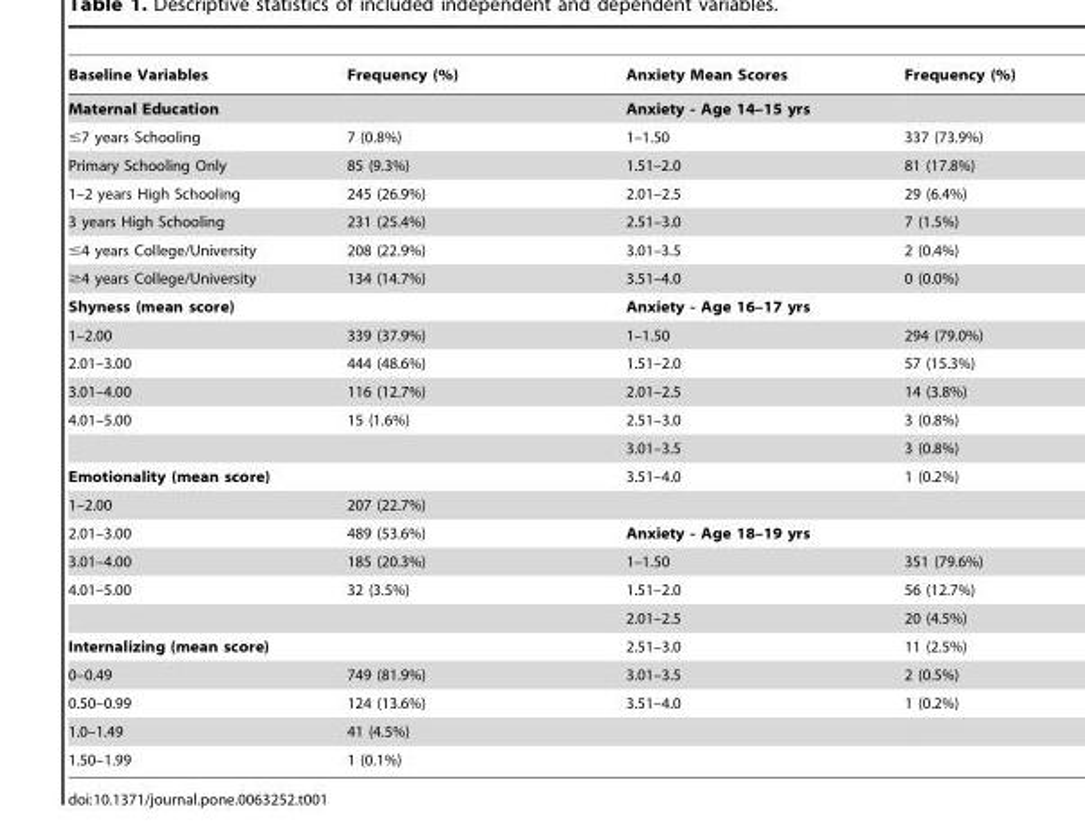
<table><thead><tr><td>Baseline Variables</td><td>Frequency (%)</td><td>Anxiety Mean Scores</td><td>Frequency (%)</td></tr></thead><tbody><tr><td>Maternal Education</td><td></td><td>Anxiety - Age 14–15 yrs</td><td></td></tr><tr><td>≤7 years Schooling</td><td>7 (0.8%)</td><td>1–1.50</td><td>337 (73.9%)</td></tr><tr><td>Primary Schooling Only</td><td>85 (9.3%)</td><td>1.51–2.0</td><td>81 (17.8%)</td></tr><tr><td>1–2 years High Schooling</td><td>245 (26.9%)</td><td>2.01–2.5</td><td>29 (6.4%)</td></tr><tr><td>3 years High Schooling</td><td>231 (25.4%)</td><td>2.51–3.0</td><td>7 (1.5%)</td></tr><tr><td>≤4 years College/University</td><td>208 (22.9%)</td><td>3.01–3.5</td><td>2 (0.4%)</td></tr><tr><td>≥4 years College/University</td><td>134 (14.7%)</td><td>3.51–4.0</td><td>0 (0.0%)</td></tr><tr><td>Shyness (mean score)</td><td></td><td>Anxiety - Age 16–17 yrs</td><td></td></tr><tr><td>1–2.00</td><td>339 (37.9%)</td><td>1–1.50</td><td>294 (79.0%)</td></tr><tr><td>2.01–3.00</td><td>444 (48.6%)</td><td>1.51–2.0</td><td>57 (15.3%)</td></tr><tr><td>3.01–4.00</td><td>116 (12.7%)</td><td>2.01–2.5</td><td>14 (3.8%)</td></tr><tr><td rowspan="2">4.01–5.00</td><td>15 (1.6%)</td><td>2.51–3.0</td><td>3 (0.8%)</td></tr><tr><td></td><td>3.01–3.5</td><td>3 (0.8%)</td></tr><tr><td>Emotionality (mean score)</td><td></td><td>3.51–4.0</td><td>1 (0.2%)</td></tr><tr><td>1–2.00</td><td>207 (22.7%)</td><td></td><td></td></tr><tr><td>2.01–3.00</td><td>489 (53.6%)</td><td>Anxiety - Age 18–19 yrs</td><td></td></tr><tr><td>3.01–4.00</td><td>185 (20.3%)</td><td>1–1.50</td><td>351 (79.6%)</td></tr><tr><td rowspan="2">4.01–5.00</td><td>32 (3.5%)</td><td>1.51–2.0</td><td>56 (12.7%)</td></tr><tr><td></td><td>2.01–2.5</td><td>20 (4.5%)</td></tr><tr><td>Internalizing (mean score)</td><td></td><td>2.51–3.0</td><td>11 (2.5%)</td></tr><tr><td>0–0.49</td><td>749 (81.9%)</td><td>3.01–3.5</td><td>2 (0.5%)</td></tr><tr><td>0.50–0.99</td><td>124 (13.6%)</td><td>3.51–4.0</td><td>1 (0.2%)</td></tr><tr><td>1.0–1.49</td><td>41 (4.5%)</td><td></td><td></td></tr><tr><td>1.50–1.99</td><td>1 (0.1%)</td><td></td><td></td></tr></tbody></table>